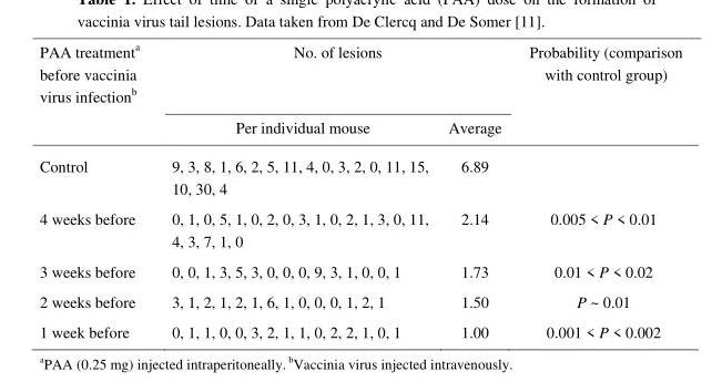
<table><thead><tr><td rowspan="2">PAA treatment<sup>a</sup> before vaccinia virus infection<sup>b</sup></td><td colspan="2">No. of lesions</td><td rowspan="2">Probability (comparison with control group)</td></tr><tr><td>Per individual mouse</td><td>Average</td></tr></thead><tbody><tr><td>Control</td><td>9, 3, 8, 1, 6, 2, 5, 11, 4, 0, 3, 2, 0, 11, 15, 10, 30, 4</td><td>6.89</td><td></td></tr><tr><td>4 weeks before</td><td>0, 1, 0, 5, 1, 0, 2, 0, 3, 1, 0, 2, 1, 3, 0, 11, 4, 3, 7, 1, 0</td><td>2.14</td><td>0.005 &lt; P &lt; 0.01</td></tr><tr><td>3 weeks before</td><td>0, 0, 1, 3, 5, 3, 0, 0, 0, 9, 3, 1, 0, 0, 1</td><td>1.73</td><td>0.01 &lt; P &lt; 0.02</td></tr><tr><td>2 weeks before</td><td>3, 1, 2, 1, 2, 1, 6, 1, 0, 0, 0, 1, 2, 1</td><td>1.50</td><td>P ~ 0.01</td></tr><tr><td>1 week before</td><td>0, 1, 1, 0, 0, 3, 2, 1, 1, 0, 2, 2, 1, 0, 1</td><td>1.00</td><td>0.001 &lt; P &lt; 0.002</td></tr></tbody></table>